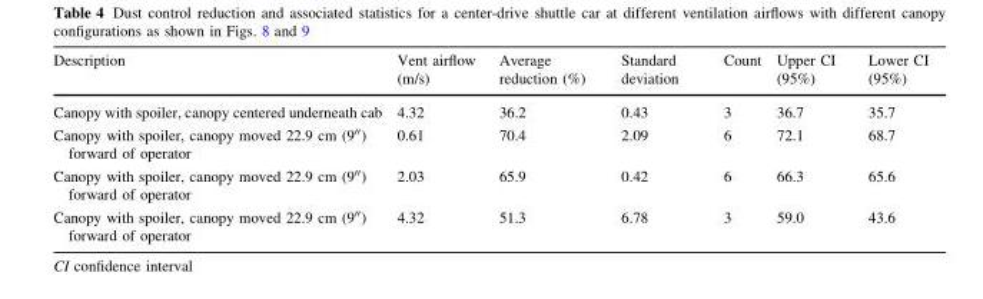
<table><thead><tr><td>Description</td><td>Vent airflow (m/s)</td><td>Average reduction (%)</td><td>Standard deviation</td><td>Count</td><td>Upper CI (95%)</td><td>Lower CI (95%)</td></tr></thead><tbody><tr><td>Canopy with spoiler, canopy centered underneath cab</td><td>4.32</td><td>36.2</td><td>0.43</td><td>3</td><td>36.7</td><td>35.7</td></tr><tr><td>Canopy with spoiler, canopy moved 22.9 cm (900) forward of operator</td><td>0.61</td><td>70.4</td><td>2.09</td><td>6</td><td>72.1</td><td>68.7</td></tr><tr><td>Canopy with spoiler, canopy moved 22.9 cm (900) forward of operator</td><td>2.03</td><td>65.9</td><td>0.42</td><td>6</td><td>66.3</td><td>65.6</td></tr><tr><td>Canopy with spoiler, canopy moved 22.9 cm (900) forward of operator</td><td>4.32</td><td>51.3</td><td>6.78</td><td>3</td><td>59.0</td><td>43.6</td></tr></tbody></table>